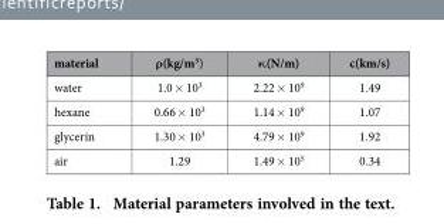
<table><thead><tr><td>material</td><td>ρ(kg/m<sup>3</sup>)</td><td>κ(N/m)</td><td>c(km/s)</td></tr></thead><tbody><tr><td>water</td><td>1.0 × 10<sup>3</sup></td><td>2.22 × 10<sup>9</sup></td><td>1.49</td></tr><tr><td>hexane</td><td>0.66 × 10<sup>3</sup></td><td>1.14 × 10<sup>9</sup></td><td>1.07</td></tr><tr><td>glycerin</td><td>1.30 × 10<sup>3</sup></td><td>4.79 × 10<sup>9</sup></td><td>1.92</td></tr><tr><td>air</td><td>1.29</td><td>1.49 × 10<sup>5</sup></td><td>0.34</td></tr></tbody></table>